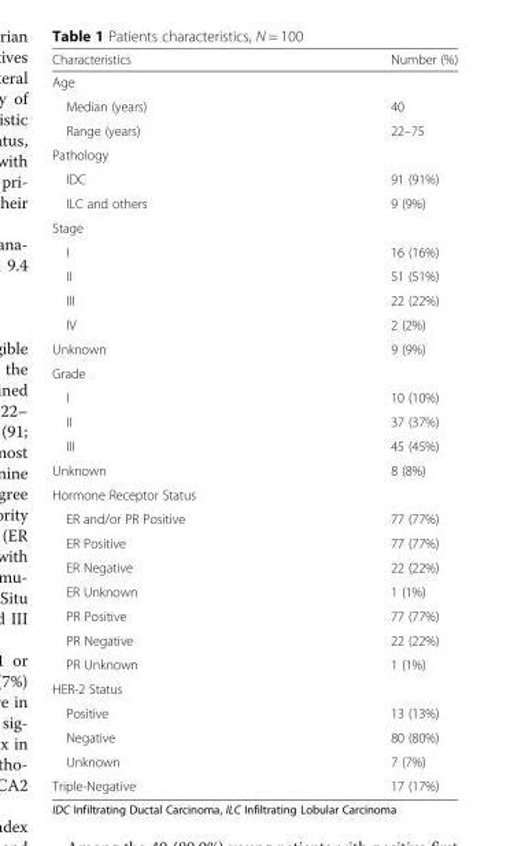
<table><thead><tr><td>Characteristics</td><td>Number (%)</td></tr></thead><tbody><tr><td colspan="2">Age</td></tr><tr><td>Median (years)</td><td>40</td></tr><tr><td>Range (years)</td><td>22–75</td></tr><tr><td colspan="2">Pathology</td></tr><tr><td>IDC</td><td>91 (91%)</td></tr><tr><td>ILC and others</td><td>9 (9%)</td></tr><tr><td colspan="2">Stage</td></tr><tr><td>I</td><td>16 (16%)</td></tr><tr><td>II</td><td>51 (51%)</td></tr><tr><td>III</td><td>22 (22%)</td></tr><tr><td>IV</td><td>2 (2%)</td></tr><tr><td>Unknown</td><td>9 (9%)</td></tr><tr><td colspan="2">Grade</td></tr><tr><td>I</td><td>10 (10%)</td></tr><tr><td>II</td><td>37 (37%)</td></tr><tr><td>III</td><td>45 (45%)</td></tr><tr><td>Unknown</td><td>8 (8%)</td></tr><tr><td colspan="2">Hormone Receptor Status</td></tr><tr><td>ER and/or PR Positive</td><td>77 (77%)</td></tr><tr><td>ER Positive</td><td>77 (77%)</td></tr><tr><td>ER Negative</td><td>22 (22%)</td></tr><tr><td>ER Unknown</td><td>1 (1%)</td></tr><tr><td>PR Positive</td><td>77 (77%)</td></tr><tr><td>PR Negative</td><td>22 (22%)</td></tr><tr><td>PR Unknown</td><td>1 (1%)</td></tr><tr><td colspan="2">HER-2 Status</td></tr><tr><td>Positive</td><td>13 (13%)</td></tr><tr><td>Negative</td><td>80 (80%)</td></tr><tr><td>Unknown</td><td>7 (7%)</td></tr><tr><td>Triple-Negative</td><td>17 (17%)</td></tr></tbody></table>